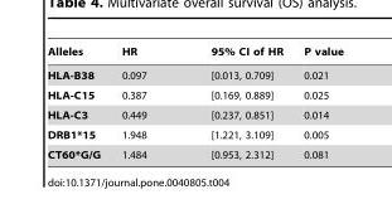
<table><thead><tr><td>Alleles</td><td>HR</td><td>95% CI of HR</td><td>P value</td></tr></thead><tbody><tr><td>HLA-B38</td><td>0.097</td><td>[0.013, 0.709]</td><td>0.021</td></tr><tr><td>HLA-C15</td><td>0.387</td><td>[0.169, 0.889]</td><td>0.025</td></tr><tr><td>HLA-C3</td><td>0.449</td><td>[0.237, 0.851]</td><td>0.014</td></tr><tr><td>DRB1*15</td><td>1.948</td><td>[1.221, 3.109]</td><td>0.005</td></tr><tr><td>CT60*G/G</td><td>1.484</td><td>[0.953, 2.312]</td><td>0.081</td></tr></tbody></table>